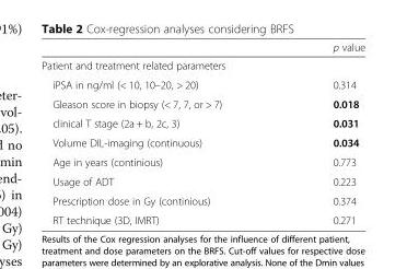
<table><thead><tr><td></td><td>p value</td></tr></thead><tbody><tr><td colspan="2">Patient and treatment related parameters</td></tr><tr><td>iPSA in ng/ml (&lt; 10, 10–20, &gt; 20)</td><td>0.314</td></tr><tr><td>Gleason score in biopsy (&lt; 7, 7, or &gt; 7)</td><td>0.018</td></tr><tr><td>clinical T stage (2a + b, 2c, 3)</td><td>0.031</td></tr><tr><td>Volume DIL-imaging (continuous)</td><td>0.034</td></tr><tr><td>Age in years (continious)</td><td>0.773</td></tr><tr><td>Usage of ADT</td><td>0.223</td></tr><tr><td>Prescription dose in Gy (continious)</td><td>0.374</td></tr><tr><td>RT technique (3D, IMRT)</td><td>0.271</td></tr></tbody></table>